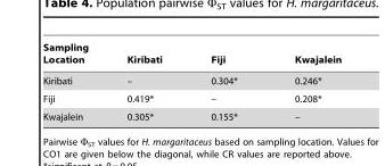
<table><thead><tr><td>Sampling Location</td><td>Kiribati</td><td>Fiji</td><td>Kwajalein</td></tr></thead><tbody><tr><td>Kiribati</td><td>–</td><td>0.304*</td><td>0.246*</td></tr><tr><td>Fiji</td><td>0.419*</td><td>–</td><td>0.208*</td></tr><tr><td>Kwajalein</td><td>0.305*</td><td>0.155*</td><td>–</td></tr></tbody></table>